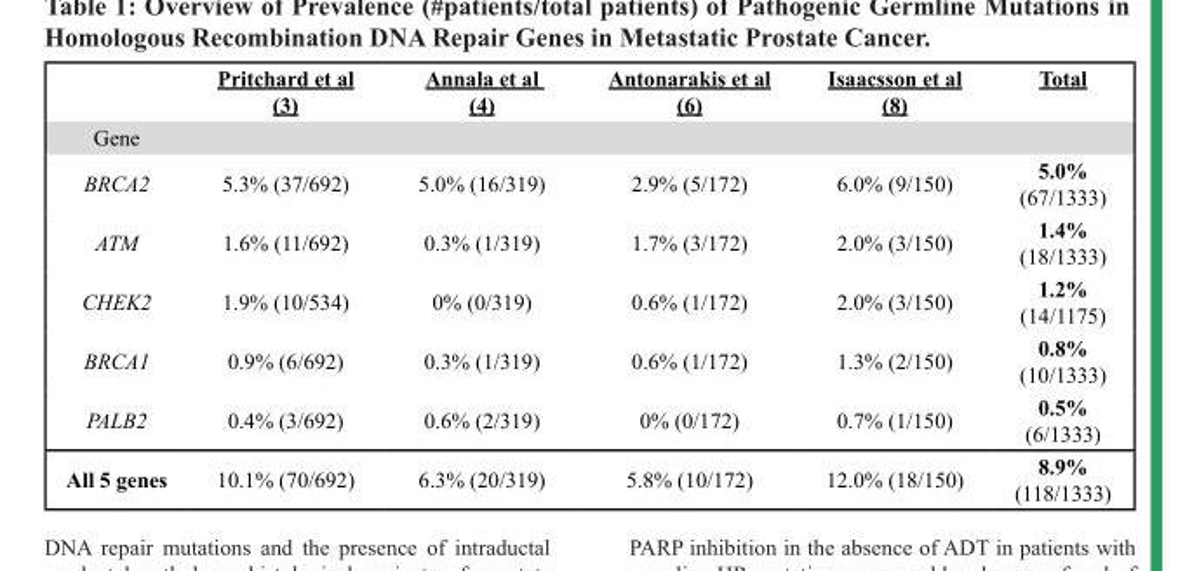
<table><thead><tr><td></td><td>Pritchard et al (3)</td><td>Annala et al (4)</td><td>Antonarakis et al (6)</td><td>Isaacsson et al (8)</td><td>Total</td></tr></thead><tbody><tr><td colspan="6">Gene</td></tr><tr><td>BRCA2</td><td>5.3% (37/692)</td><td>5.0% (16/319)</td><td>2.9% (5/172)</td><td>6.0% (9/150)</td><td>5.0% (67/1333)</td></tr><tr><td>ATM</td><td>1.6% (11/692)</td><td>0.3% (1/319)</td><td>1.7% (3/172)</td><td>2.0% (3/150)</td><td>1.4% (18/1333)</td></tr><tr><td>CHEK2</td><td>1.9% (10/534)</td><td>0% (0/319)</td><td>0.6% (1/172)</td><td>2.0% (3/150)</td><td>1.2% (14/1175)</td></tr><tr><td>BRCA1</td><td>0.9% (6/692)</td><td>0.3% (1/319)</td><td>0.6% (1/172)</td><td>1.3% (2/150)</td><td>0.8% (10/1333)</td></tr><tr><td>PALB2</td><td>0.4% (3/692)</td><td>0.6% (2/319)</td><td>0% (0/172)</td><td>0.7% (1/150)</td><td>0.5% (6/1333)</td></tr><tr><td>All 5 genes</td><td>10.1% (70/692)</td><td>6.3% (20/319)</td><td>5.8% (10/172)</td><td>12.0% (18/150)</td><td>8.9% (118/1333)</td></tr></tbody></table>